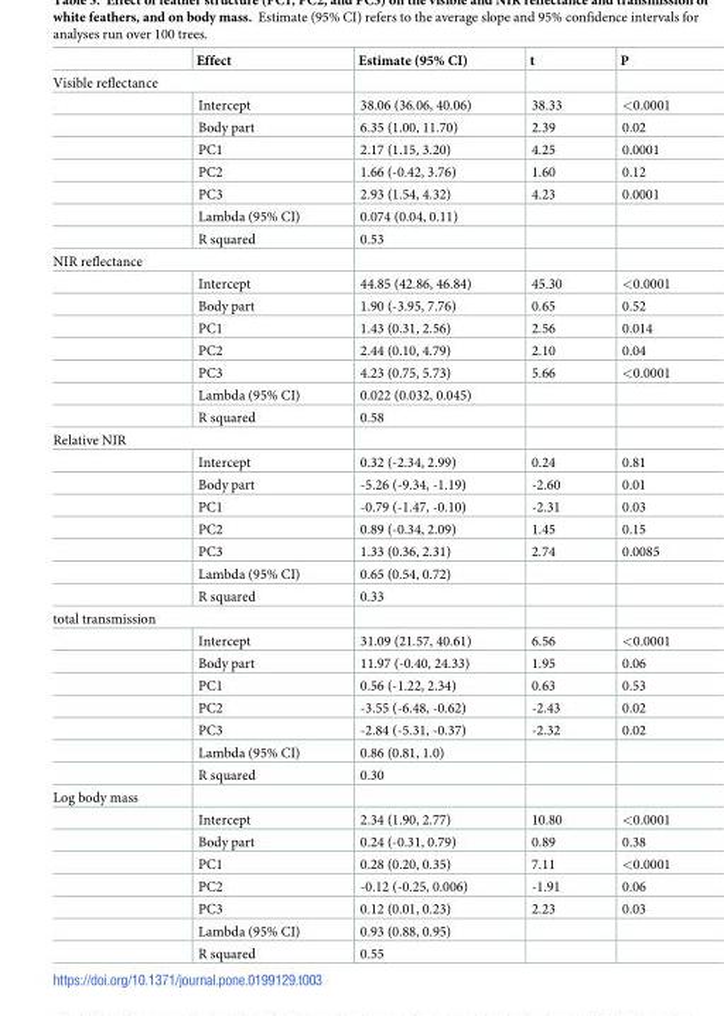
<table><thead><tr><td></td><td>Effect</td><td>Estimate (95% CI)</td><td>t</td><td>P</td></tr></thead><tbody><tr><td colspan="5">Visible reflectance</td></tr><tr><td></td><td>Intercept</td><td>38.06 (36.06, 40.06)</td><td>38.33</td><td>&lt;0.0001</td></tr><tr><td></td><td>Body part</td><td>6.35 (1.00, 11.70)</td><td>2.39</td><td>0.02</td></tr><tr><td></td><td>PC1</td><td>2.17 (1.15, 3.20)</td><td>4.25</td><td>0.0001</td></tr><tr><td></td><td>PC2</td><td>1.66 (-0.42, 3.76)</td><td>1.60</td><td>0.12</td></tr><tr><td></td><td>PC3</td><td>2.93 (1.54, 4.32)</td><td>4.23</td><td>0.0001</td></tr><tr><td></td><td>Lambda (95% CI)</td><td>0.074 (0.04, 0.11)</td><td></td><td></td></tr><tr><td></td><td>R squared</td><td>0.53</td><td></td><td></td></tr><tr><td colspan="5">NIR reflectance</td></tr><tr><td></td><td>Intercept</td><td>44.85 (42.86, 46.84)</td><td>45.30</td><td>&lt;0.0001</td></tr><tr><td></td><td>Body part</td><td>1.90 (-3.95, 7.76)</td><td>0.65</td><td>0.52</td></tr><tr><td></td><td>PC1</td><td>1.43 (0.31, 2.56)</td><td>2.56</td><td>0.014</td></tr><tr><td></td><td>PC2</td><td>2.44 (0.10, 4.79)</td><td>2.10</td><td>0.04</td></tr><tr><td></td><td>PC3</td><td>4.23 (0.75, 5.73)</td><td>5.66</td><td>&lt;0.0001</td></tr><tr><td></td><td>Lambda (95% CI)</td><td>0.022 (0.032, 0.045)</td><td></td><td></td></tr><tr><td></td><td>R squared</td><td>0.58</td><td></td><td></td></tr><tr><td colspan="5">Relative NIR</td></tr><tr><td></td><td>Intercept</td><td>0.32 (-2.34, 2.99)</td><td>0.24</td><td>0.81</td></tr><tr><td></td><td>Body part</td><td>-5.26 (-9.34, -1.19)</td><td>-2.60</td><td>0.01</td></tr><tr><td></td><td>PC1</td><td>-0.79 (-1.47, -0.10)</td><td>-2.31</td><td>0.03</td></tr><tr><td></td><td>PC2</td><td>0.89 (-0.34, 2.09)</td><td>1.45</td><td>0.15</td></tr><tr><td></td><td>PC3</td><td>1.33 (0.36, 2.31)</td><td>2.74</td><td>0.0085</td></tr><tr><td></td><td>Lambda (95% CI)</td><td>0.65 (0.54, 0.72)</td><td></td><td></td></tr><tr><td></td><td>R squared</td><td>0.33</td><td></td><td></td></tr><tr><td colspan="5">total transmission</td></tr><tr><td></td><td>Intercept</td><td>31.09 (21.57, 40.61)</td><td>6.56</td><td>&lt;0.0001</td></tr><tr><td></td><td>Body part</td><td>11.97 (-0.40, 24.33)</td><td>1.95</td><td>0.06</td></tr><tr><td></td><td>PC1</td><td>0.56 (-1.22, 2.34)</td><td>0.63</td><td>0.53</td></tr><tr><td></td><td>PC2</td><td>-3.55 (-6.48, -0.62)</td><td>-2.43</td><td>0.02</td></tr><tr><td></td><td>PC3</td><td>-2.84 (-5.31, -0.37)</td><td>-2.32</td><td>0.02</td></tr><tr><td></td><td>Lambda (95% CI)</td><td>0.86 (0.81, 1.0)</td><td></td><td></td></tr><tr><td></td><td>R squared</td><td>0.30</td><td></td><td></td></tr><tr><td colspan="5">Log body mass</td></tr><tr><td></td><td>Intercept</td><td>2.34 (1.90, 2.77)</td><td>10.80</td><td>&lt;0.0001</td></tr><tr><td></td><td>Body part</td><td>0.24 (-0.31, 0.79)</td><td>0.89</td><td>0.38</td></tr><tr><td></td><td>PC1</td><td>0.28 (0.20, 0.35)</td><td>7.11</td><td>&lt;0.0001</td></tr><tr><td></td><td>PC2</td><td>-0.12 (-0.25, 0.006)</td><td>-1.91</td><td>0.06</td></tr><tr><td></td><td>PC3</td><td>0.12 (0.01, 0.23)</td><td>2.23</td><td>0.03</td></tr><tr><td></td><td>Lambda (95% CI)</td><td>0.93 (0.88, 0.95)</td><td></td><td></td></tr><tr><td></td><td>R squared</td><td>0.55</td><td></td><td></td></tr></tbody></table>